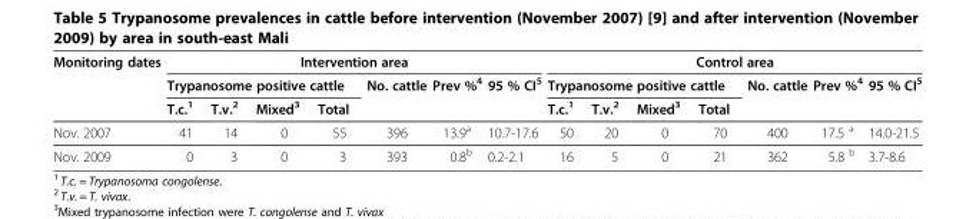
<table><thead><tr><td rowspan="3">Monitoring dates</td><td colspan="7">Intervention area</td><td colspan="7">Control area</td></tr><tr><td colspan="4">Trypanosome positive cattle</td><td rowspan="2">No. cattle</td><td rowspan="2">Prev %<sup>4</sup></td><td rowspan="2">95 % CI<sup>5</sup></td><td colspan="4">Trypanosome positive cattle</td><td rowspan="2">No. cattle</td><td rowspan="2">Prev %<sup>4</sup></td><td rowspan="2">95 % CI<sup>5</sup></td></tr><tr><td>T.c.<sup>1</sup></td><td>T.v.<sup>2</sup></td><td>Mixed<sup>3</sup></td><td>Total</td><td>T.c.<sup>1</sup></td><td>T.v.<sup>2</sup></td><td>Mixed<sup>3</sup></td><td>Total</td></tr></thead><tbody><tr><td>Nov. 2007</td><td>41</td><td>14</td><td>0</td><td>55</td><td>396</td><td>13.9<sup>a</sup></td><td>10.7-17.6</td><td>50</td><td>20</td><td>0</td><td>70</td><td>400</td><td>17.5 <sup>a</sup></td><td>14.0-21.5</td></tr><tr><td>Nov. 2009</td><td>0</td><td>3</td><td>0</td><td>3</td><td>393</td><td>0.8<sup>b</sup></td><td>0.2-2.1</td><td>16</td><td>5</td><td>0</td><td>21</td><td>362</td><td>5.8 <sup>b</sup></td><td>3.7-8.6</td></tr></tbody></table>